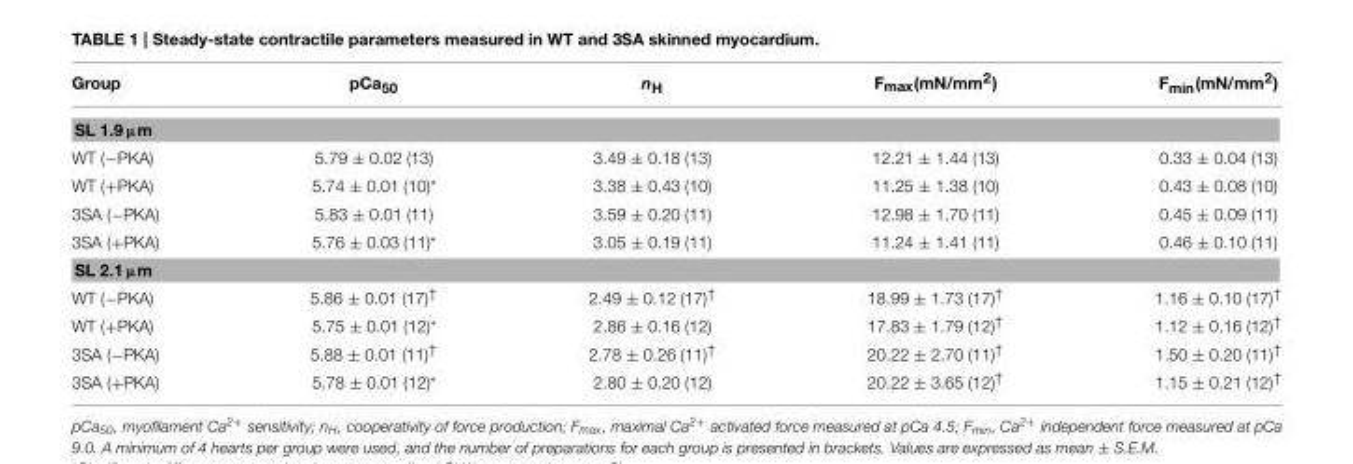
<table><thead><tr><td>Group</td><td>pCa<sub>50</sub></td><td>n<sub>H</sub></td><td>F<sub>max</sub>(mN/mm<sup>2</sup>)</td><td>F<sub>min</sub>(mN/mm<sup>2</sup>)</td></tr></thead><tbody><tr><td colspan="5">SL 1.9 µm</td></tr><tr><td>WT (−PKA)</td><td>5.79 ± 0.02 (13)</td><td>3.49 ± 0.18 (13)</td><td>12.21 ± 1.44 (13)</td><td>0.33 ± 0.04 (13)</td></tr><tr><td>WT (+PKA)</td><td>5.74 ± 0.01 (10)*</td><td>3.38 ± 0.43 (10)</td><td>11.25 ± 1.38 (10)</td><td>0.43 ± 0.08 (10)</td></tr><tr><td>3SA (−PKA)</td><td>5.83 ± 0.01 (11)</td><td>3.59 ± 0.20 (11)</td><td>12.98 ± 1.70 (11)</td><td>0.45 ± 0.09 (11)</td></tr><tr><td>3SA (+PKA)</td><td>5.76 ± 0.03 (11)*</td><td>3.05 ± 0.19 (11)</td><td>11.24 ± 1.41 (11)</td><td>0.46 ± 0.10 (11)</td></tr><tr><td colspan="5">SL 2.1 µm</td></tr><tr><td>WT (−PKA)</td><td>5.86 ± 0.01 (17)<sup>†</sup></td><td>2.49 ± 0.12 (17)<sup>†</sup></td><td>18.99 ± 1.73 (17)<sup>†</sup></td><td>1.16 ± 0.10 (17)<sup>†</sup></td></tr><tr><td>WT (+PKA)</td><td>5.75 ± 0.01 (12)*</td><td>2.86 ± 0.16 (12)</td><td>17.83 ± 1.79 (12)<sup>†</sup></td><td>1.12 ± 0.16 (12)<sup>†</sup></td></tr><tr><td>3SA (−PKA)</td><td>5.88 ± 0.01 (11)<sup>†</sup></td><td>2.78 ± 0.26 (11)<sup>†</sup></td><td>20.22 ± 2.70 (11)<sup>†</sup></td><td>1.50 ± 0.20 (11)<sup>†</sup></td></tr><tr><td>3SA (+PKA)</td><td>5.78 ± 0.01 (12)*</td><td>2.80 ± 0.20 (12)</td><td>20.22 ± 3.65 (12)<sup>†</sup></td><td>1.15 ± 0.21 (12)<sup>†</sup></td></tr></tbody></table>